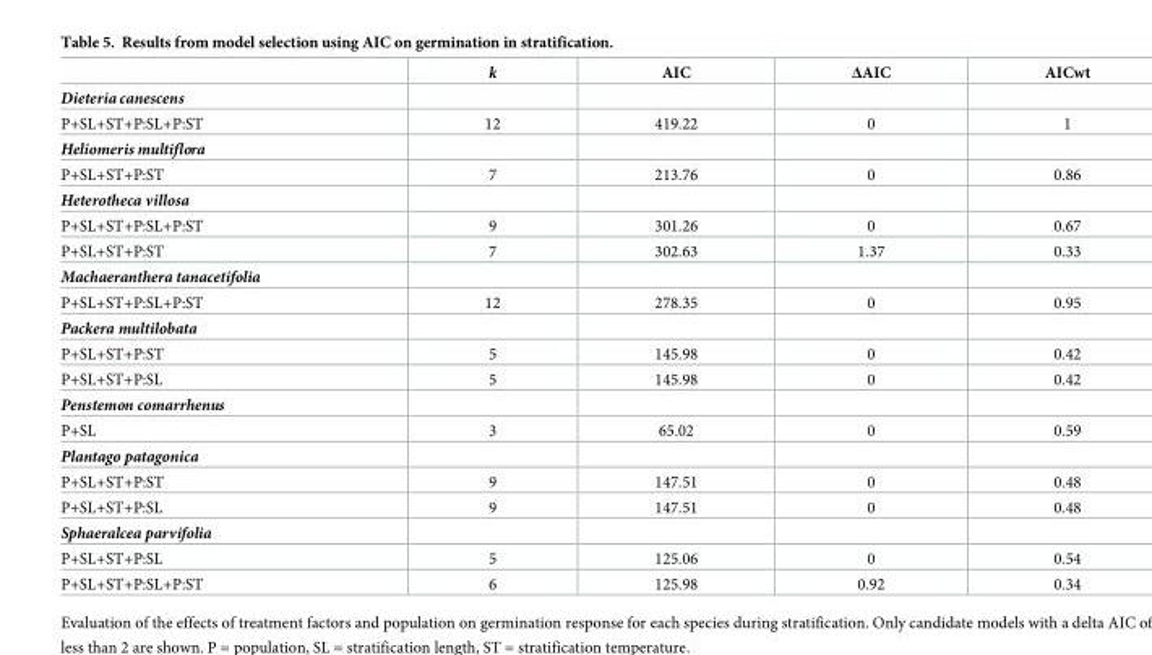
<table><thead><tr><td></td><td>k</td><td>AIC</td><td>ΔAIC</td><td>AICwt</td></tr></thead><tbody><tr><td colspan="5">Dieteria canescens</td></tr><tr><td>P+SL+ST+P:SL+P:ST</td><td>12</td><td>419.22</td><td>0</td><td>1</td></tr><tr><td colspan="5">Heliomeris multiflora</td></tr><tr><td>P+SL+ST+P:ST</td><td>7</td><td>213.76</td><td>0</td><td>0.86</td></tr><tr><td colspan="5">Heterotheca villosa</td></tr><tr><td>P+SL+ST+P:SL+P:ST</td><td>9</td><td>301.26</td><td>0</td><td>0.67</td></tr><tr><td>P+SL+ST+P:ST</td><td>7</td><td>302.63</td><td>1.37</td><td>0.33</td></tr><tr><td colspan="5">Machaeranthera tanacetifolia</td></tr><tr><td>P+SL+ST+P:SL+P:ST</td><td>12</td><td>278.35</td><td>0</td><td>0.95</td></tr><tr><td colspan="5">Packera multilobata</td></tr><tr><td>P+SL+ST+P:ST</td><td>5</td><td>145.98</td><td>0</td><td>0.42</td></tr><tr><td>P+SL+ST+P:SL</td><td>5</td><td>145.98</td><td>0</td><td>0.42</td></tr><tr><td colspan="5">Penstemon comarrhenus</td></tr><tr><td>P+SL</td><td>3</td><td>65.02</td><td>0</td><td>0.59</td></tr><tr><td colspan="5">Plantago patagonica</td></tr><tr><td>P+SL+ST+P:ST</td><td>9</td><td>147.51</td><td>0</td><td>0.48</td></tr><tr><td>P+SL+ST+P:SL</td><td>9</td><td>147.51</td><td>0</td><td>0.48</td></tr><tr><td colspan="5">Sphaeralcea parvifolia</td></tr><tr><td>P+SL+ST+P:SL</td><td>5</td><td>125.06</td><td>0</td><td>0.54</td></tr><tr><td>P+SL+ST+P:SL+P:ST</td><td>6</td><td>125.98</td><td>0.92</td><td>0.34</td></tr></tbody></table>